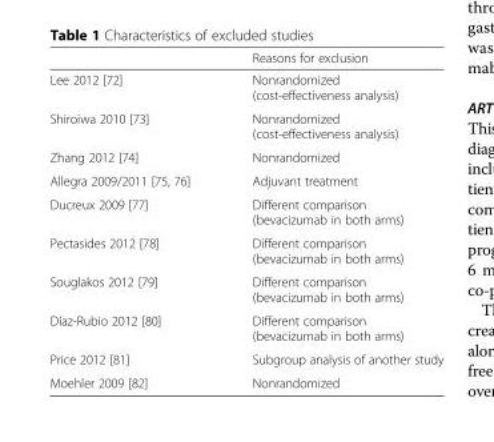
<table><thead><tr><td></td><td>Reasons for exclusion</td></tr></thead><tbody><tr><td>Lee 2012 [72]</td><td>Nonrandomized (cost-effectiveness analysis)</td></tr><tr><td>Shiroiwa 2010 [73]</td><td>Nonrandomized (cost-effectiveness analysis)</td></tr><tr><td>Zhang 2012 [74]</td><td>Nonrandomized</td></tr><tr><td>Allegra 2009/2011 [75, 76]</td><td>Adjuvant treatment</td></tr><tr><td>Ducreux 2009 [77]</td><td>Different comparison (bevacizumab in both arms)</td></tr><tr><td>Pectasides 2012 [78]</td><td>Different comparison (bevacizumab in both arms)</td></tr><tr><td>Souglakos 2012 [79]</td><td>Different comparison (bevacizumab in both arms)</td></tr><tr><td>Díaz-Rubio 2012 [80]</td><td>Different comparison (bevacizumab in both arms)</td></tr><tr><td>Price 2012 [81]</td><td>Subgroup analysis of another study</td></tr><tr><td>Moehler 2009 [82]</td><td>Nonrandomized</td></tr></tbody></table>